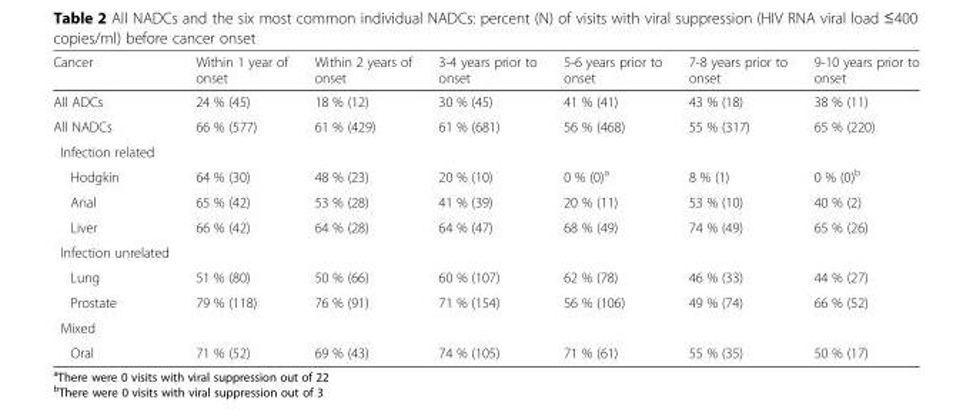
<table><thead><tr><td>Cancer</td><td>Within 1 year of onset</td><td>Within 2 years of onset</td><td>3-4 years prior to onset</td><td>5-6 years prior to onset</td><td>7-8 years prior to onset</td><td>9-10 years prior to onset</td></tr></thead><tbody><tr><td>All ADCs</td><td>24 % (45)</td><td>18 % (12)</td><td>30 % (45)</td><td>41 % (41)</td><td>43 % (18)</td><td>38 % (11)</td></tr><tr><td>All NADCs</td><td>66 % (577)</td><td>61 % (429)</td><td>61 % (681)</td><td>56 % (468)</td><td>55 % (317)</td><td>65 % (220)</td></tr><tr><td colspan="7">Infection related</td></tr><tr><td>Hodgkin</td><td>64 % (30)</td><td>48 % (23)</td><td>20 % (10)</td><td>0 % (0)<sup>a</sup></td><td>8 % (1)</td><td>0 % (0)<sup>b</sup></td></tr><tr><td>Anal</td><td>65 % (42)</td><td>53 % (28)</td><td>41 % (39)</td><td>20 % (11)</td><td>53 % (10)</td><td>40 % (2)</td></tr><tr><td>Liver</td><td>66 % (42)</td><td>64 % (28)</td><td>64 % (47)</td><td>68 % (49)</td><td>74 % (49)</td><td>65 % (26)</td></tr><tr><td colspan="7">Infection unrelated</td></tr><tr><td>Lung</td><td>51 % (80)</td><td>50 % (66)</td><td>60 % (107)</td><td>62 % (78)</td><td>46 % (33)</td><td>44 % (27)</td></tr><tr><td>Prostate</td><td>79 % (118)</td><td>76 % (91)</td><td>71 % (154)</td><td>56 % (106)</td><td>49 % (74)</td><td>66 % (52)</td></tr><tr><td colspan="7">Mixed</td></tr><tr><td>Oral</td><td>71 % (52)</td><td>69 % (43)</td><td>74 % (105)</td><td>71 % (61)</td><td>55 % (35)</td><td>50 % (17)</td></tr></tbody></table>